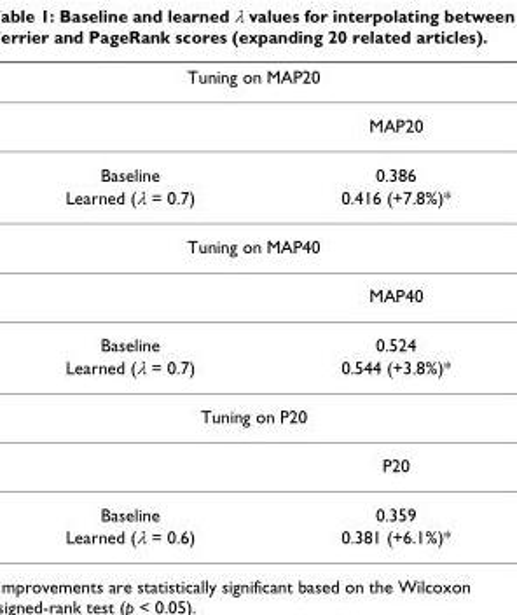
<table><thead><tr><td colspan="2">Tuning on MAP20</td></tr><tr><td></td><td>MAP20</td></tr></thead><tbody><tr><td>Baseline</td><td>0.386</td></tr><tr><td>Learned (λ = 0.7)</td><td>0.416 (+7.8%)*</td></tr><tr><td colspan="2">Tuning on MAP40</td></tr><tr><td></td><td>MAP40</td></tr><tr><td>Baseline</td><td>0.524</td></tr><tr><td>Learned (λ = 0.7)</td><td>0.544 (+3.8%)*</td></tr><tr><td colspan="2">Tuning on P20</td></tr><tr><td></td><td>P20</td></tr><tr><td>Baseline</td><td>0.359</td></tr><tr><td>Learned (λ = 0.6)</td><td>0.381 (+6.1%)*</td></tr></tbody></table>